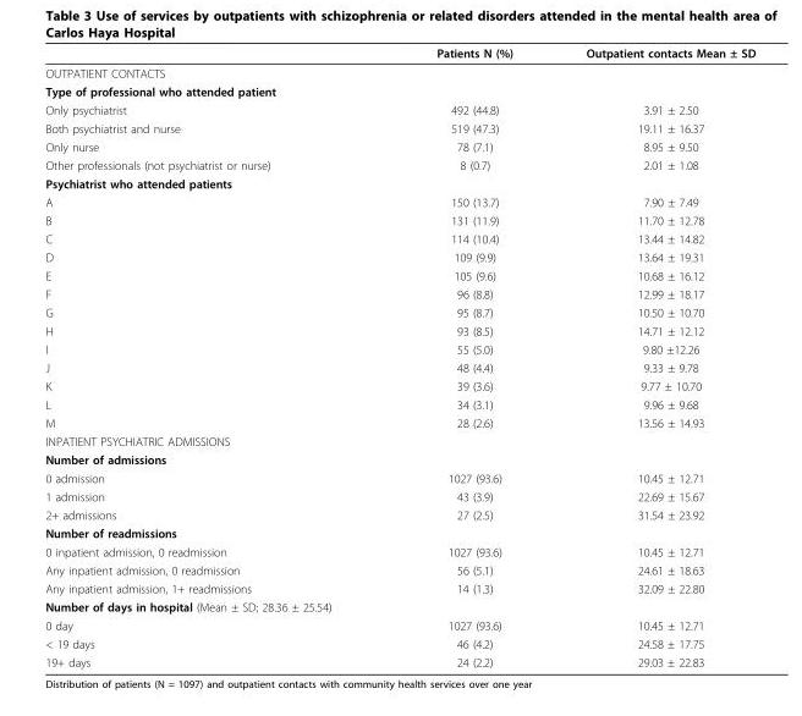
<table><thead><tr><td></td><td>Patients N (%)</td><td>Outpatient contacts Mean ± SD</td></tr></thead><tbody><tr><td colspan="3">OUTPATIENT CONTACTS</td></tr><tr><td colspan="3">Type of professional who attended patient</td></tr><tr><td>Only psychiatrist</td><td>492 (44.8)</td><td>3.91 ± 2.50</td></tr><tr><td>Both psychiatrist and nurse</td><td>519 (47.3)</td><td>19.11 ± 16.37</td></tr><tr><td>Only nurse</td><td>78 (7.1)</td><td>8.95 ± 9.50</td></tr><tr><td>Other professionals (not psychiatrist or nurse)</td><td>8 (0.7)</td><td>2.01 ± 1.08</td></tr><tr><td colspan="3">Psychiatrist who attended patients</td></tr><tr><td>A</td><td>150 (13.7)</td><td>7.90 ± 7.49</td></tr><tr><td>B</td><td>131 (11.9)</td><td>11.70 ± 12.78</td></tr><tr><td>C</td><td>114 (10.4)</td><td>13.44 ± 14.82</td></tr><tr><td>D</td><td>109 (9.9)</td><td>13.64 ± 19.31</td></tr><tr><td>E</td><td>105 (9.6)</td><td>10.68 ± 16.12</td></tr><tr><td>F</td><td>96 (8.8)</td><td>12.99 ± 18.17</td></tr><tr><td>G</td><td>95 (8.7)</td><td>10.50 ± 10.70</td></tr><tr><td>H</td><td>93 (8.5)</td><td>14.71 ± 12.12</td></tr><tr><td>I</td><td>55 (5.0)</td><td>9.80 ±12.26</td></tr><tr><td>J</td><td>48 (4.4)</td><td>9.33 ± 9.78</td></tr><tr><td>K</td><td>39 (3.6)</td><td>9.77 ± 10.70</td></tr><tr><td>L</td><td>34 (3.1)</td><td>9.96 ± 9.68</td></tr><tr><td>M</td><td>28 (2.6)</td><td>13.56 ± 14.93</td></tr><tr><td colspan="3">INPATIENT PSYCHIATRIC ADMISSIONS</td></tr><tr><td colspan="3">Number of admissions</td></tr><tr><td>0 admission</td><td>1027 (93.6)</td><td>10.45 ± 12.71</td></tr><tr><td>1 admission</td><td>43 (3.9)</td><td>22.69 ± 15.67</td></tr><tr><td>2+ admissions</td><td>27 (2.5)</td><td>31.54 ± 23.92</td></tr><tr><td colspan="3">Number of readmissions</td></tr><tr><td>0 inpatient admission, 0 readmission</td><td>1027 (93.6)</td><td>10.45 ± 12.71</td></tr><tr><td>Any inpatient admission, 0 readmission</td><td>56 (5.1)</td><td>24.61 ± 18.63</td></tr><tr><td>Any inpatient admission, 1+ readmissions</td><td>14 (1.3)</td><td>32.09 ± 22.80</td></tr><tr><td colspan="3">Number of days in hospital (Mean ± SD; 28.36 ± 25.54)</td></tr><tr><td>0 day</td><td>1027 (93.6)</td><td>10.45 ± 12.71</td></tr><tr><td>&lt; 19 days</td><td>46 (4.2)</td><td>24.58 ± 17.75</td></tr><tr><td>19+ days</td><td>24 (2.2)</td><td>29.03 ± 22.83</td></tr></tbody></table>